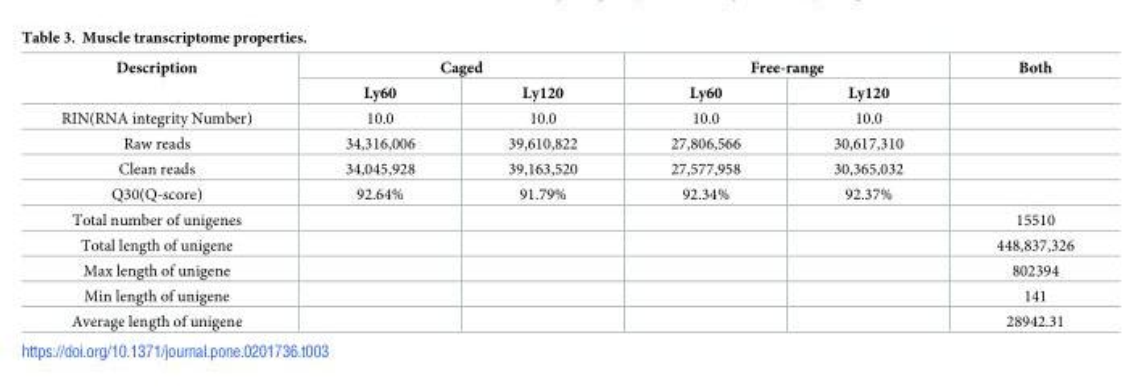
<table><thead><tr><td rowspan="2">Description</td><td colspan="2">Caged</td><td colspan="2">Free-range</td><td rowspan="2">Both</td></tr><tr><td>Ly60</td><td>Ly120</td><td>Ly60</td><td>Ly120</td></tr></thead><tbody><tr><td>RIN(RNA integrity Number)</td><td>10.0</td><td>10.0</td><td>10.0</td><td>10.0</td><td></td></tr><tr><td>Raw reads</td><td>34,316,006</td><td>39,610,822</td><td>27,806,566</td><td>30,617,310</td><td></td></tr><tr><td>Clean reads</td><td>34,045,928</td><td>39,163,520</td><td>27,577,958</td><td>30,365,032</td><td></td></tr><tr><td>Q30(Q-score)</td><td>92.64%</td><td>91.79%</td><td>92.34%</td><td>92.37%</td><td></td></tr><tr><td>Total number of unigenes</td><td></td><td></td><td></td><td></td><td>15510</td></tr><tr><td>Total length of unigene</td><td></td><td></td><td></td><td></td><td>448,837,326</td></tr><tr><td>Max length of unigene</td><td></td><td></td><td></td><td></td><td>802394</td></tr><tr><td>Min length of unigene</td><td></td><td></td><td></td><td></td><td>141</td></tr><tr><td>Average length of unigene</td><td></td><td></td><td></td><td></td><td>28942.31</td></tr></tbody></table>